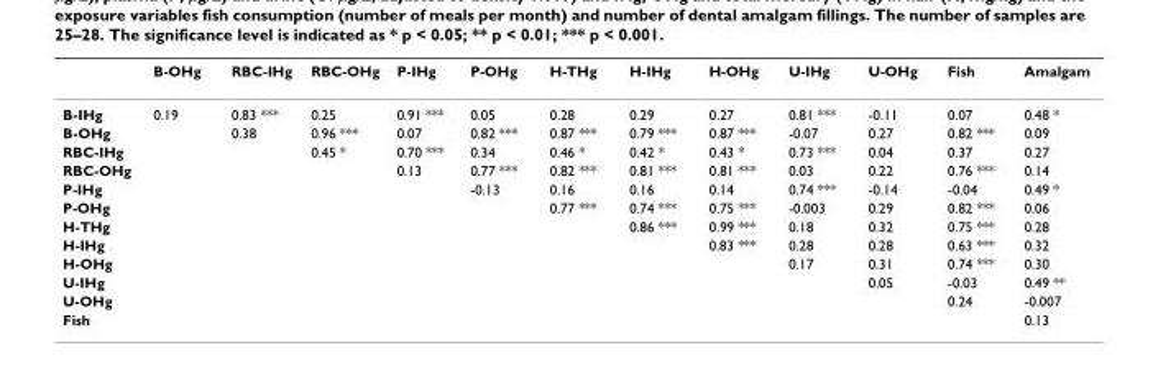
<table><thead><tr><td></td><td>B-OHg</td><td>RBC-IHg</td><td>RBC-OHg</td><td>P-IHg</td><td>P-OHg</td><td>H-THg</td><td>H-IHg</td><td>H-OHg</td><td>U-IHg</td><td>U-OHg</td><td>Fish</td><td>Amalgam</td></tr></thead><tbody><tr><td>B-IHg</td><td>0.19</td><td>0.83 ***</td><td>0.25</td><td>0.91 ***</td><td>0.05</td><td>0.28</td><td>0.29</td><td>0.27</td><td>0.81 ***</td><td>-0.11</td><td>0.07</td><td>0.48 *</td></tr><tr><td>B-OHg</td><td></td><td>0.38</td><td>0.96 ***</td><td>0.07</td><td>0.82 ***</td><td>0.87 ***</td><td>0.79 ***</td><td>0.87 ***</td><td>-0.07</td><td>0.27</td><td>0.82 ***</td><td>0.09</td></tr><tr><td>RBC-IHg</td><td></td><td></td><td>0.45 *</td><td>0.70 ***</td><td>0.34</td><td>0.46 *</td><td>0.42 *</td><td>0.43 *</td><td>0.73 ***</td><td>0.04</td><td>0.37</td><td>0.27</td></tr><tr><td>RBC-OHg</td><td></td><td></td><td></td><td>0.13</td><td>0.77 ***</td><td>0.82 ***</td><td>0.81 ***</td><td>0.81 ***</td><td>0.03</td><td>0.22</td><td>0.76 ***</td><td>0.14</td></tr><tr><td>P-IHg</td><td></td><td></td><td></td><td></td><td>-0.13</td><td>0.16</td><td>0.16</td><td>0.14</td><td>0.74 ***</td><td>-0.14</td><td>-0.04</td><td>0.49 *</td></tr><tr><td>P-OHg</td><td></td><td></td><td></td><td></td><td></td><td>0.77 ***</td><td>0.74 ***</td><td>0.75 ***</td><td>-0.003</td><td>0.29</td><td>0.82 ***</td><td>0.06</td></tr><tr><td>H-THg</td><td></td><td></td><td></td><td></td><td></td><td></td><td>0.86 ***</td><td>0.99 ***</td><td>0.18</td><td>0.32</td><td>0.75 ***</td><td>0.28</td></tr><tr><td>H-IHg</td><td></td><td></td><td></td><td></td><td></td><td></td><td></td><td>0.83 ***</td><td>0.28</td><td>0.28</td><td>0.63 ***</td><td>0.32</td></tr><tr><td>H-OHg</td><td></td><td></td><td></td><td></td><td></td><td></td><td></td><td></td><td>0.17</td><td>0.31</td><td>0.74 ***</td><td>0.30</td></tr><tr><td>U-IHg</td><td></td><td></td><td></td><td></td><td></td><td></td><td></td><td></td><td></td><td>0.05</td><td>-0.03</td><td>0.49 **</td></tr><tr><td>U-OHg</td><td></td><td></td><td></td><td></td><td></td><td></td><td></td><td></td><td></td><td></td><td>0.24</td><td>-0.007</td></tr><tr><td>Fish</td><td></td><td></td><td></td><td></td><td></td><td></td><td></td><td></td><td></td><td></td><td></td><td>0.13</td></tr></tbody></table>